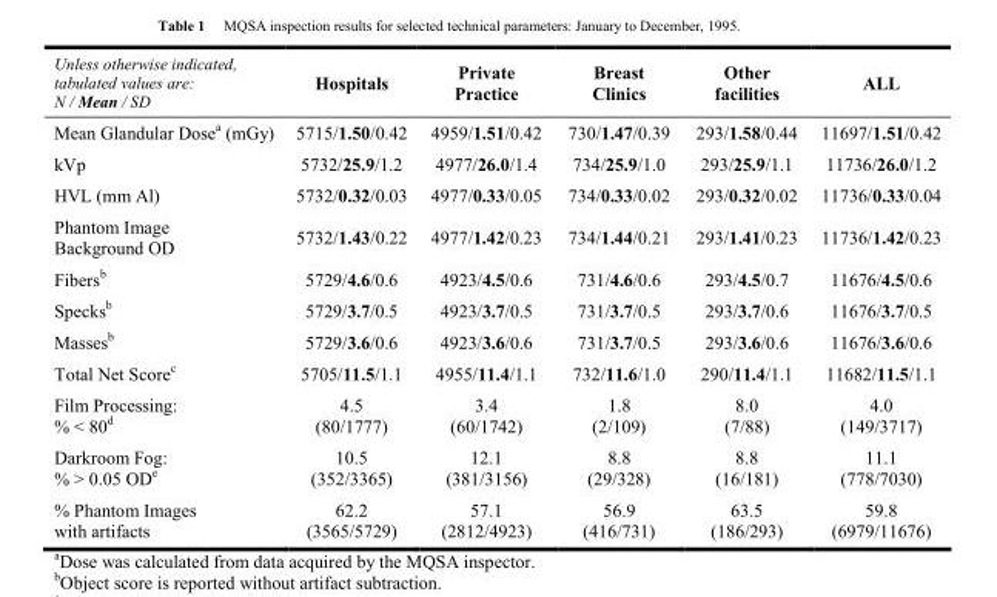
<table><thead><tr><td>Unless otherwise indicated, tabulated values are: N / Mean / SD</td><td>Hospitals</td><td>Private Practice</td><td>Breast Clinics</td><td>Other facilities</td><td>ALL</td></tr></thead><tbody><tr><td>Mean Glandular Dose<sup>a</sup> (mGy)</td><td>5715/1.50/0.42</td><td>4959/1.51/0.42</td><td>730/1.47/0.39</td><td>293/1.58/0.44</td><td>11697/1.51/0.42</td></tr><tr><td>kVp</td><td>5732/25.9/1.2</td><td>4977/26.0/1.4</td><td>734/25.9/1.0</td><td>293/25.9/1.1</td><td>11736/26.0/1.2</td></tr><tr><td>HVL (mm Al)</td><td>5732/0.32/0.03</td><td>4977/0.33/0.05</td><td>734/0.33/0.02</td><td>293/0.32/0.02</td><td>11736/0.33/0.04</td></tr><tr><td>Phantom Image Background OD</td><td>5732/1.43/0.22</td><td>4977/1.42/0.23</td><td>734/1.44/0.21</td><td>293/1.41/0.23</td><td>11736/1.42/0.23</td></tr><tr><td>Fibers<sup>b</sup></td><td>5729/4.6/0.6</td><td>4923/4.5/0.6</td><td>731/4.6/0.6</td><td>293/4.5/0.7</td><td>11676/4.5/0.6</td></tr><tr><td>Specks<sup>b</sup></td><td>5729/3.7/0.5</td><td>4923/3.7/0.5</td><td>731/3.7/0.5</td><td>293/3.7/0.6</td><td>11676/3.7/0.5</td></tr><tr><td>Masses<sup>b</sup></td><td>5729/3.6/0.6</td><td>4923/3.6/0.6</td><td>731/3.7/0.5</td><td>293/3.6/0.6</td><td>11676/3.6/0.6</td></tr><tr><td>Total Net Score<sup>c</sup></td><td>5705/11.5/1.1</td><td>4955/11.4/1.1</td><td>732/11.6/1.0</td><td>290/11.4/1.1</td><td>11682/11.5/1.1</td></tr><tr><td>Film Processing: % &lt; 80<sup>d</sup></td><td>4.5 (80/1777)</td><td>3.4 (60/1742)</td><td>1.8 (2/109)</td><td>8.0 (7/88)</td><td>4.0 (149/3717)</td></tr><tr><td>Darkroom Fog: % &gt; 0.05 OD<sup>e</sup></td><td>10.5 (352/3365)</td><td>12.1 (381/3156)</td><td>8.8 (29/328)</td><td>8.8 (16/181)</td><td>11.1 (778/7030)</td></tr><tr><td>% Phantom Images with artifacts</td><td>62.2 (3565/5729)</td><td>57.1 (2812/4923)</td><td>56.9 (416/731)</td><td>63.5 (186/293)</td><td>59.8 (6979/11676)</td></tr></tbody></table>